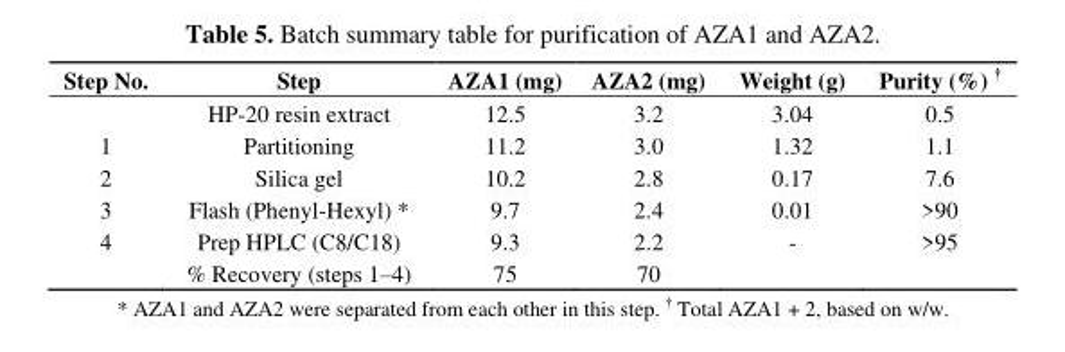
<table><thead><tr><td>Step No.</td><td>Step</td><td>AZA1 (mg)</td><td>AZA2 (mg)</td><td>Weight (g)</td><td>Purity (%) <sup>†</sup></td></tr></thead><tbody><tr><td></td><td>HP-20 resin extract</td><td>12.5</td><td>3.2</td><td>3.04</td><td>0.5</td></tr><tr><td>1</td><td>Partitioning</td><td>11.2</td><td>3.0</td><td>1.32</td><td>1.1</td></tr><tr><td>2</td><td>Silica gel</td><td>10.2</td><td>2.8</td><td>0.17</td><td>7.6</td></tr><tr><td>3</td><td>Flash (Phenyl-Hexyl) *</td><td>9.7</td><td>2.4</td><td>0.01</td><td>&gt;90</td></tr><tr><td rowspan="2">4</td><td>Prep HPLC (C8/C18)</td><td>9.3</td><td>2.2</td><td>-</td><td>&gt;95</td></tr><tr><td>% Recovery (steps 1–4)</td><td>75</td><td>70</td><td></td><td></td></tr></tbody></table>